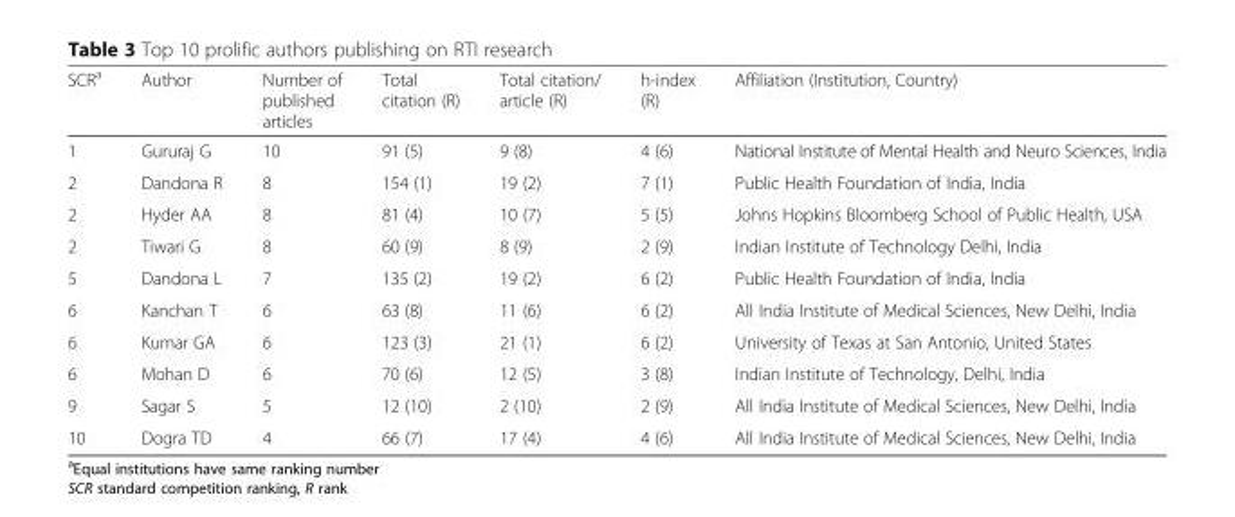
<table><thead><tr><td>SCR<sup>a</sup></td><td>Author</td><td>Number of published articles</td><td>Total citation (R)</td><td>Total citation/ article (R)</td><td>h-index (R)</td><td>Affiliation (Institution, Country)</td></tr></thead><tbody><tr><td>1</td><td>Gururaj G</td><td>10</td><td>91 (5)</td><td>9 (8)</td><td>4 (6)</td><td>National Institute of Mental Health and Neuro Sciences, India</td></tr><tr><td>2</td><td>Dandona R</td><td>8</td><td>154 (1)</td><td>19 (2)</td><td>7 (1)</td><td>Public Health Foundation of India, India</td></tr><tr><td>2</td><td>Hyder AA</td><td>8</td><td>81 (4)</td><td>10 (7)</td><td>5 (5)</td><td>Johns Hopkins Bloomberg School of Public Health, USA</td></tr><tr><td>2</td><td>Tiwari G</td><td>8</td><td>60 (9)</td><td>8 (9)</td><td>2 (9)</td><td>Indian Institute of Technology Delhi, India</td></tr><tr><td>5</td><td>Dandona L</td><td>7</td><td>135 (2)</td><td>19 (2)</td><td>6 (2)</td><td>Public Health Foundation of India, India</td></tr><tr><td>6</td><td>Kanchan T</td><td>6</td><td>63 (8)</td><td>11 (6)</td><td>6 (2)</td><td>All India Institute of Medical Sciences, New Delhi, India</td></tr><tr><td>6</td><td>Kumar GA</td><td>6</td><td>123 (3)</td><td>21 (1)</td><td>6 (2)</td><td>University of Texas at San Antonio, United States</td></tr><tr><td>6</td><td>Mohan D</td><td>6</td><td>70 (6)</td><td>12 (5)</td><td>3 (8)</td><td>Indian Institute of Technology, Delhi, India</td></tr><tr><td>9</td><td>Sagar S</td><td>5</td><td>12 (10)</td><td>2 (10)</td><td>2 (9)</td><td>All India Institute of Medical Sciences, New Delhi, India</td></tr><tr><td>10</td><td>Dogra TD</td><td>4</td><td>66 (7)</td><td>17 (4)</td><td>4 (6)</td><td>All India Institute of Medical Sciences, New Delhi, India</td></tr></tbody></table>